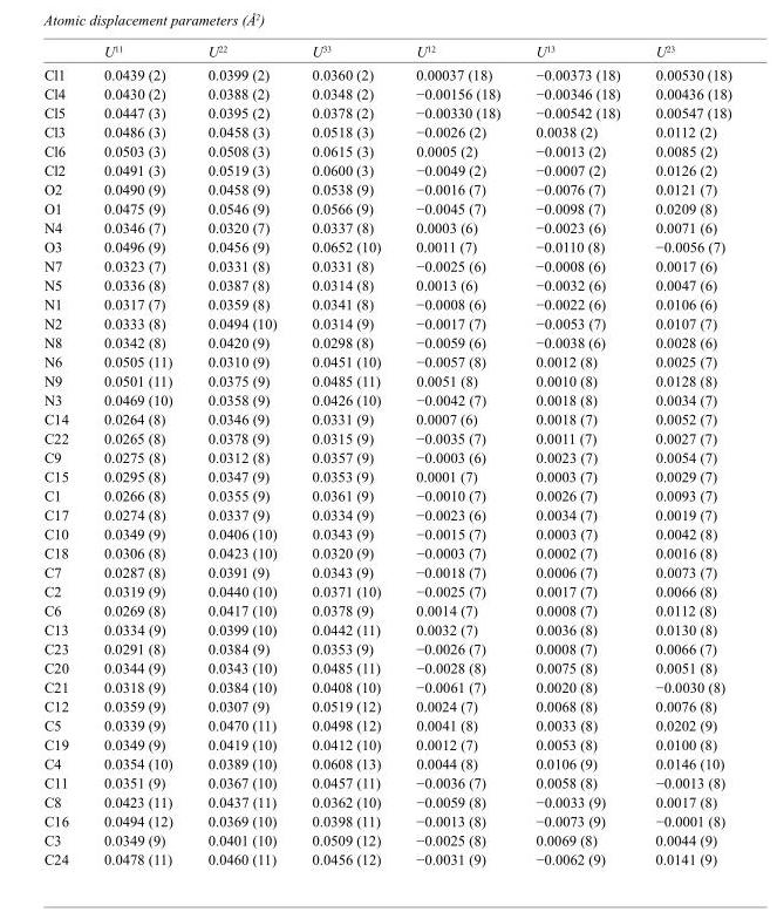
<table><thead><tr><td></td><td>U<sup>11</sup></td><td>U<sup>22</sup></td><td>U<sup>33</sup></td><td>U<sup>12</sup></td><td>U<sup>13</sup></td><td>U<sup>23</sup></td></tr></thead><tbody><tr><td>Cl1</td><td>0.0439 (2)</td><td>0.0399 (2)</td><td>0.0360 (2)</td><td>0.00037 (18)</td><td>−0.00373 (18)</td><td>0.00530 (18)</td></tr><tr><td>Cl4</td><td>0.0430 (2)</td><td>0.0388 (2)</td><td>0.0348 (2)</td><td>−0.00156 (18)</td><td>−0.00346 (18)</td><td>0.00436 (18)</td></tr><tr><td>Cl5</td><td>0.0447 (3)</td><td>0.0395 (2)</td><td>0.0378 (2)</td><td>−0.00330 (18)</td><td>−0.00542 (18)</td><td>0.00547 (18)</td></tr><tr><td>Cl3</td><td>0.0486 (3)</td><td>0.0458 (3)</td><td>0.0518 (3)</td><td>−0.0026 (2)</td><td>0.0038 (2)</td><td>0.0112 (2)</td></tr><tr><td>Cl6</td><td>0.0503 (3)</td><td>0.0508 (3)</td><td>0.0615 (3)</td><td>0.0005 (2)</td><td>−0.0013 (2)</td><td>0.0085 (2)</td></tr><tr><td>Cl2</td><td>0.0491 (3)</td><td>0.0519 (3)</td><td>0.0600 (3)</td><td>−0.0049 (2)</td><td>−0.0007 (2)</td><td>0.0126 (2)</td></tr><tr><td>O2</td><td>0.0490 (9)</td><td>0.0458 (9)</td><td>0.0538 (9)</td><td>−0.0016 (7)</td><td>−0.0076 (7)</td><td>0.0121 (7)</td></tr><tr><td>O1</td><td>0.0475 (9)</td><td>0.0546 (9)</td><td>0.0566 (9)</td><td>−0.0045 (7)</td><td>−0.0098 (7)</td><td>0.0209 (8)</td></tr><tr><td>N4</td><td>0.0346 (7)</td><td>0.0320 (7)</td><td>0.0337 (8)</td><td>0.0003 (6)</td><td>−0.0023 (6)</td><td>0.0071 (6)</td></tr><tr><td>O3</td><td>0.0496 (9)</td><td>0.0456 (9)</td><td>0.0652 (10)</td><td>0.0011 (7)</td><td>−0.0110 (8)</td><td>−0.0056 (7)</td></tr><tr><td>N7</td><td>0.0323 (7)</td><td>0.0331 (8)</td><td>0.0331 (8)</td><td>−0.0025 (6)</td><td>−0.0008 (6)</td><td>0.0017 (6)</td></tr><tr><td>N5</td><td>0.0336 (8)</td><td>0.0387 (8)</td><td>0.0314 (8)</td><td>0.0013 (6)</td><td>−0.0032 (6)</td><td>0.0047 (6)</td></tr><tr><td>N1</td><td>0.0317 (7)</td><td>0.0359 (8)</td><td>0.0341 (8)</td><td>−0.0008 (6)</td><td>−0.0022 (6)</td><td>0.0106 (6)</td></tr><tr><td>N2</td><td>0.0333 (8)</td><td>0.0494 (10)</td><td>0.0314 (9)</td><td>−0.0017 (7)</td><td>−0.0053 (7)</td><td>0.0107 (7)</td></tr><tr><td>N8</td><td>0.0342 (8)</td><td>0.0420 (9)</td><td>0.0298 (8)</td><td>−0.0059 (6)</td><td>−0.0038 (6)</td><td>0.0028 (6)</td></tr><tr><td>N6</td><td>0.0505 (11)</td><td>0.0310 (9)</td><td>0.0451 (10)</td><td>−0.0057 (8)</td><td>0.0012 (8)</td><td>0.0025 (7)</td></tr><tr><td>N9</td><td>0.0501 (11)</td><td>0.0375 (9)</td><td>0.0485 (11)</td><td>0.0051 (8)</td><td>0.0010 (8)</td><td>0.0128 (8)</td></tr><tr><td>N3</td><td>0.0469 (10)</td><td>0.0358 (9)</td><td>0.0426 (10)</td><td>−0.0042 (7)</td><td>0.0018 (8)</td><td>0.0034 (7)</td></tr><tr><td>C14</td><td>0.0264 (8)</td><td>0.0346 (9)</td><td>0.0331 (9)</td><td>0.0007 (6)</td><td>0.0018 (7)</td><td>0.0052 (7)</td></tr><tr><td>C22</td><td>0.0265 (8)</td><td>0.0378 (9)</td><td>0.0315 (9)</td><td>−0.0035 (7)</td><td>0.0011 (7)</td><td>0.0027 (7)</td></tr><tr><td>C9</td><td>0.0275 (8)</td><td>0.0312 (8)</td><td>0.0357 (9)</td><td>−0.0003 (6)</td><td>0.0023 (7)</td><td>0.0054 (7)</td></tr><tr><td>C15</td><td>0.0295 (8)</td><td>0.0347 (9)</td><td>0.0353 (9)</td><td>0.0001 (7)</td><td>0.0003 (7)</td><td>0.0029 (7)</td></tr><tr><td>C1</td><td>0.0266 (8)</td><td>0.0355 (9)</td><td>0.0361 (9)</td><td>−0.0010 (7)</td><td>0.0026 (7)</td><td>0.0093 (7)</td></tr><tr><td>C17</td><td>0.0274 (8)</td><td>0.0337 (9)</td><td>0.0334 (9)</td><td>−0.0023 (6)</td><td>0.0034 (7)</td><td>0.0019 (7)</td></tr><tr><td>C10</td><td>0.0349 (9)</td><td>0.0406 (10)</td><td>0.0343 (9)</td><td>−0.0015 (7)</td><td>0.0003 (7)</td><td>0.0042 (8)</td></tr><tr><td>C18</td><td>0.0306 (8)</td><td>0.0423 (10)</td><td>0.0320 (9)</td><td>−0.0003 (7)</td><td>0.0002 (7)</td><td>0.0016 (8)</td></tr><tr><td>C7</td><td>0.0287 (8)</td><td>0.0391 (9)</td><td>0.0343 (9)</td><td>−0.0018 (7)</td><td>0.0006 (7)</td><td>0.0073 (7)</td></tr><tr><td>C2</td><td>0.0319 (9)</td><td>0.0440 (10)</td><td>0.0371 (10)</td><td>−0.0025 (7)</td><td>0.0017 (7)</td><td>0.0066 (8)</td></tr><tr><td>C6</td><td>0.0269 (8)</td><td>0.0417 (10)</td><td>0.0378 (9)</td><td>0.0014 (7)</td><td>0.0008 (7)</td><td>0.0112 (8)</td></tr><tr><td>C13</td><td>0.0334 (9)</td><td>0.0399 (10)</td><td>0.0442 (11)</td><td>0.0032 (7)</td><td>0.0036 (8)</td><td>0.0130 (8)</td></tr><tr><td>C23</td><td>0.0291 (8)</td><td>0.0384 (9)</td><td>0.0353 (9)</td><td>−0.0026 (7)</td><td>0.0008 (7)</td><td>0.0066 (7)</td></tr><tr><td>C20</td><td>0.0344 (9)</td><td>0.0343 (10)</td><td>0.0485 (11)</td><td>−0.0028 (8)</td><td>0.0075 (8)</td><td>0.0051 (8)</td></tr><tr><td>C21</td><td>0.0318 (9)</td><td>0.0384 (10)</td><td>0.0408 (10)</td><td>−0.0061 (7)</td><td>0.0020 (8)</td><td>−0.0030 (8)</td></tr><tr><td>C12</td><td>0.0359 (9)</td><td>0.0307 (9)</td><td>0.0519 (12)</td><td>0.0024 (7)</td><td>0.0068 (8)</td><td>0.0076 (8)</td></tr><tr><td>C5</td><td>0.0339 (9)</td><td>0.0470 (11)</td><td>0.0498 (12)</td><td>0.0041 (8)</td><td>0.0033 (8)</td><td>0.0202 (9)</td></tr><tr><td>C19</td><td>0.0349 (9)</td><td>0.0419 (10)</td><td>0.0412 (10)</td><td>0.0012 (7)</td><td>0.0053 (8)</td><td>0.0100 (8)</td></tr><tr><td>C4</td><td>0.0354 (10)</td><td>0.0389 (10)</td><td>0.0608 (13)</td><td>0.0044 (8)</td><td>0.0106 (9)</td><td>0.0146 (10)</td></tr><tr><td>C11</td><td>0.0351 (9)</td><td>0.0367 (10)</td><td>0.0457 (11)</td><td>−0.0036 (7)</td><td>0.0058 (8)</td><td>−0.0013 (8)</td></tr><tr><td>C8</td><td>0.0423 (11)</td><td>0.0437 (11)</td><td>0.0362 (10)</td><td>−0.0059 (8)</td><td>−0.0033 (9)</td><td>0.0017 (8)</td></tr><tr><td>C16</td><td>0.0494 (12)</td><td>0.0369 (10)</td><td>0.0398 (11)</td><td>−0.0013 (8)</td><td>−0.0073 (9)</td><td>−0.0001 (8)</td></tr><tr><td>C3</td><td>0.0349 (9)</td><td>0.0401 (10)</td><td>0.0509 (12)</td><td>−0.0025 (8)</td><td>0.0069 (8)</td><td>0.0044 (9)</td></tr><tr><td>C24</td><td>0.0478 (11)</td><td>0.0460 (11)</td><td>0.0456 (12)</td><td>−0.0031 (9)</td><td>−0.0062 (9)</td><td>0.0141 (9)</td></tr></tbody></table>